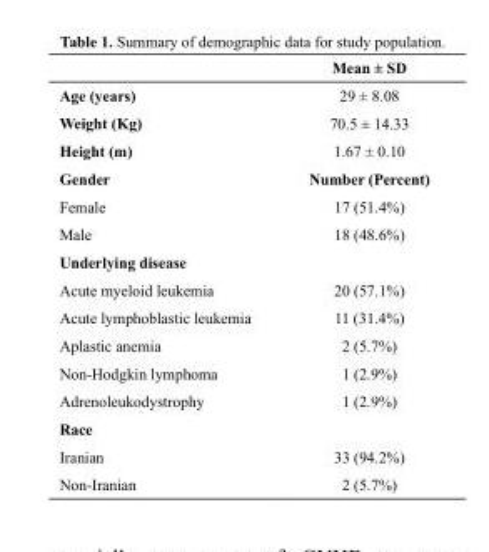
<table><thead><tr><td></td><td>Mean ± SD</td></tr></thead><tbody><tr><td>Age (years)</td><td>29 ± 8.08</td></tr><tr><td>Weight (Kg)</td><td>70.5 ± 14.33</td></tr><tr><td>Height (m)</td><td>1.67 ± 0.10</td></tr><tr><td>Gender</td><td>Number (Percent)</td></tr><tr><td>Female</td><td>17 (51.4%)</td></tr><tr><td>Male</td><td>18 (48.6%)</td></tr><tr><td colspan="2">Underlying disease</td></tr><tr><td>Acute myeloid leukemia</td><td>20 (57.1%)</td></tr><tr><td>Acute lymphoblastic leukemia</td><td>11 (31.4%)</td></tr><tr><td>Aplastic anemia</td><td>2 (5.7%)</td></tr><tr><td>Non-Hodgkin lymphoma</td><td>1 (2.9%)</td></tr><tr><td>Adrenoleukodystrophy</td><td>1 (2.9%)</td></tr><tr><td colspan="2">Race</td></tr><tr><td>Iranian</td><td>33 (94.2%)</td></tr><tr><td>Non-Iranian</td><td>2 (5.7%)</td></tr></tbody></table>